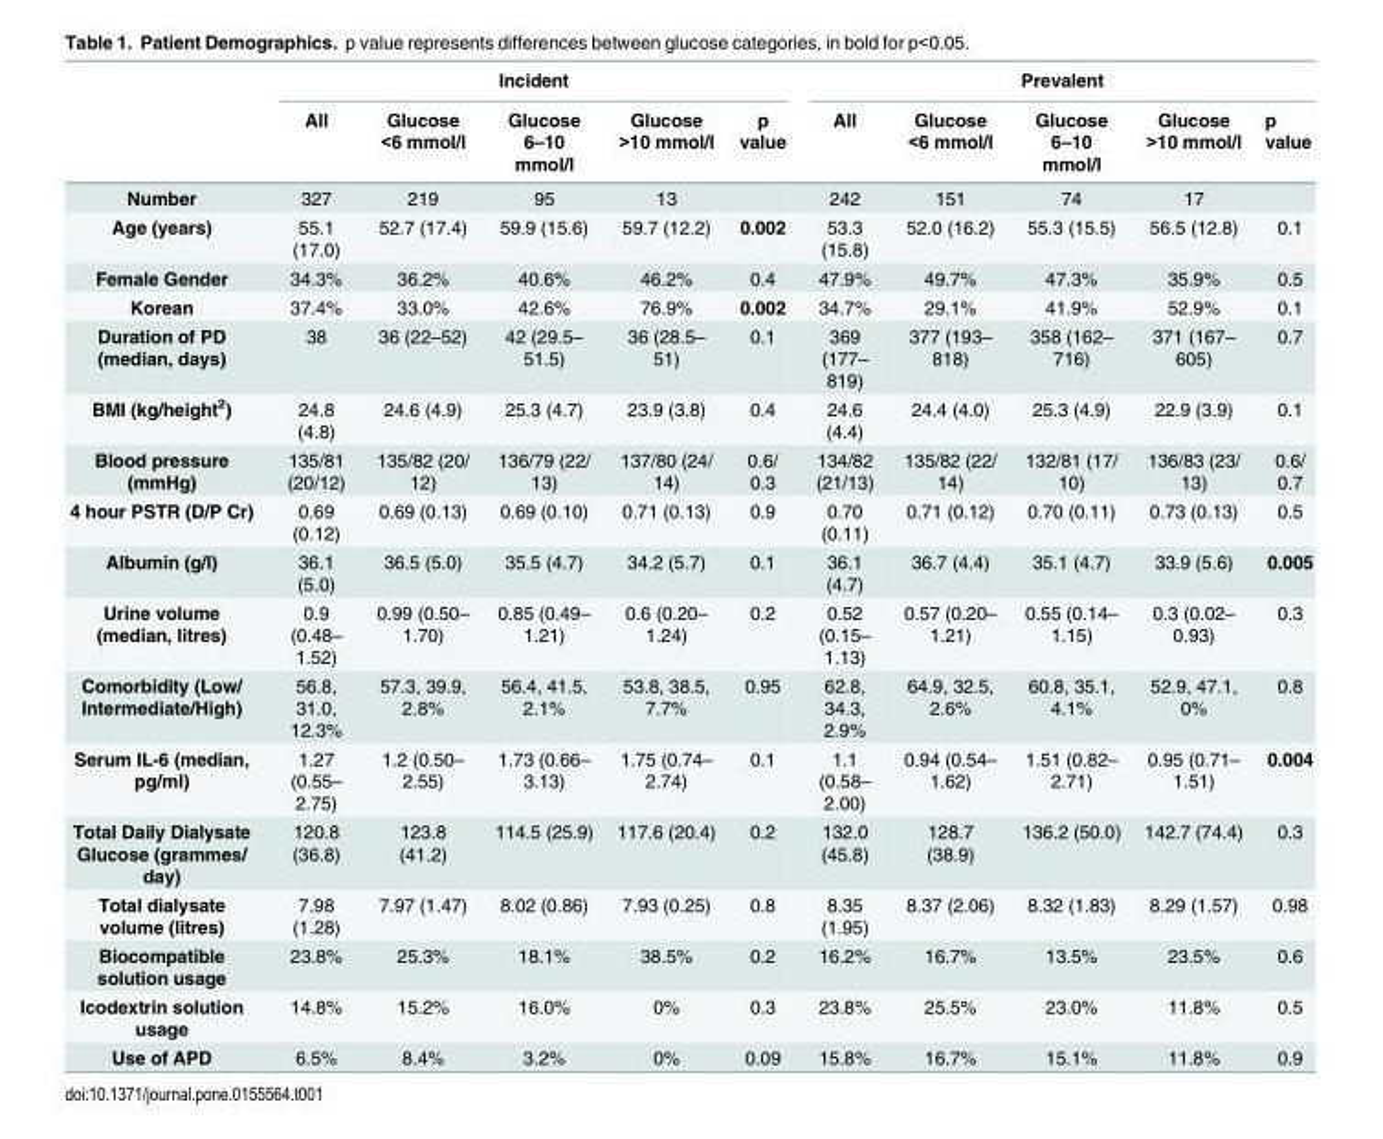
<table><thead><tr><td rowspan="2"></td><td colspan="5">Incident</td><td colspan="5">Prevalent</td></tr><tr><td>All</td><td>Glucose &lt;6 mmol/l</td><td>Glucose 6–10 mmol/l</td><td>Glucose &gt;10 mmol/l</td><td>p value</td><td>All</td><td>Glucose &lt;6 mmol/l</td><td>Glucose 6–10 mmol/l</td><td>Glucose &gt;10 mmol/l</td><td>p value</td></tr></thead><tbody><tr><td>Number</td><td>327</td><td>219</td><td>95</td><td>13</td><td></td><td>242</td><td>151</td><td>74</td><td>17</td><td></td></tr><tr><td>Age (years)</td><td>55.1 (17.0)</td><td>52.7 (17.4)</td><td>59.9 (15.6)</td><td>59.7 (12.2)</td><td>0.002</td><td>53.3 (15.8)</td><td>52.0 (16.2)</td><td>55.3 (15.5)</td><td>56.5 (12.8)</td><td>0.1</td></tr><tr><td>Female Gender</td><td>34.3%</td><td>36.2%</td><td>40.6%</td><td>46.2%</td><td>0.4</td><td>47.9%</td><td>49.7%</td><td>47.3%</td><td>35.9%</td><td>0.5</td></tr><tr><td>Korean</td><td>37.4%</td><td>33.0%</td><td>42.6%</td><td>76.9%</td><td>0.002</td><td>34.7%</td><td>29.1%</td><td>41.9%</td><td>52.9%</td><td>0.1</td></tr><tr><td>Duration of PD (median, days)</td><td>38</td><td>36 (22–52)</td><td>42 (29.5– 51.5)</td><td>36 (28.5– 51)</td><td>0.1</td><td>369 (177– 819)</td><td>377 (193– 818)</td><td>358 (162– 716)</td><td>371 (167– 605)</td><td>0.7</td></tr><tr><td>BMI (kg/height<sup>2</sup>)</td><td>24.8 (4.8)</td><td>24.6 (4.9)</td><td>25.3 (4.7)</td><td>23.9 (3.8)</td><td>0.4</td><td>24.6 (4.4)</td><td>24.4 (4.0)</td><td>25.3 (4.9)</td><td>22.9 (3.9)</td><td>0.1</td></tr><tr><td>Blood pressure (mmHg)</td><td>135/81 (20/12)</td><td>135/82 (20/ 12)</td><td>136/79 (22/ 13)</td><td>137/80 (24/ 14)</td><td>0.6/ 0.3</td><td>134/82 (21/13)</td><td>135/82 (22/ 14)</td><td>132/81 (17/ 10)</td><td>136/83 (23/ 13)</td><td>0.6/ 0.7</td></tr><tr><td>4 hour PSTR (D/P Cr)</td><td>0.69 (0.12)</td><td>0.69 (0.13)</td><td>0.69 (0.10)</td><td>0.71 (0.13)</td><td>0.9</td><td>0.70 (0.11)</td><td>0.71 (0.12)</td><td>0.70 (0.11)</td><td>0.73 (0.13)</td><td>0.5</td></tr><tr><td>Albumin (g/l)</td><td>36.1 (5.0)</td><td>36.5 (5.0)</td><td>35.5 (4.7)</td><td>34.2 (5.7)</td><td>0.1</td><td>36.1 (4.7)</td><td>36.7 (4.4)</td><td>35.1 (4.7)</td><td>33.9 (5.6)</td><td>0.005</td></tr><tr><td>Urine volume (median, litres)</td><td>0.9 (0.48– 1.52)</td><td>0.99 (0.50– 1.70)</td><td>0.85 (0.49– 1.21)</td><td>0.6 (0.20– 1.24)</td><td>0.2</td><td>0.52 (0.15– 1.13)</td><td>0.57 (0.20– 1.21)</td><td>0.55 (0.14– 1.15)</td><td>0.3 (0.02– 0.93)</td><td>0.3</td></tr><tr><td>Comorbidity (Low/ Intermediate/High)</td><td>56.8, 31.0, 12.3%</td><td>57.3, 39.9, 2.8%</td><td>56.4, 41.5, 2.1%</td><td>53.8, 38.5, 7.7%</td><td>0.95</td><td>62.8, 34.3, 2.9%</td><td>64.9, 32.5, 2.6%</td><td>60.8, 35.1, 4.1%</td><td>52.9, 47.1, 0%</td><td>0.8</td></tr><tr><td>Serum IL-6 (median, pg/ml)</td><td>1.27 (0.55– 2.75)</td><td>1.2 (0.50– 2.55)</td><td>1.73 (0.66– 3.13)</td><td>1.75 (0.74– 2.74)</td><td>0.1</td><td>1.1 (0.58– 2.00)</td><td>0.94 (0.54– 1.62)</td><td>1.51 (0.82– 2.71)</td><td>0.95 (0.71– 1.51)</td><td>0.004</td></tr><tr><td>Total Daily Dialysate Glucose (grammes/ day)</td><td>120.8 (36.8)</td><td>123.8 (41.2)</td><td>114.5 (25.9)</td><td>117.6 (20.4)</td><td>0.2</td><td>132.0 (45.8)</td><td>128.7 (38.9)</td><td>136.2 (50.0)</td><td>142.7 (74.4)</td><td>0.3</td></tr><tr><td>Total dialysate volume (litres)</td><td>7.98 (1.28)</td><td>7.97 (1.47)</td><td>8.02 (0.86)</td><td>7.93 (0.25)</td><td>0.8</td><td>8.35 (1.95)</td><td>8.37 (2.06)</td><td>8.32 (1.83)</td><td>8.29 (1.57)</td><td>0.98</td></tr><tr><td>Biocompatible solution usage</td><td>23.8%</td><td>25.3%</td><td>18.1%</td><td>38.5%</td><td>0.2</td><td>16.2%</td><td>16.7%</td><td>13.5%</td><td>23.5%</td><td>0.6</td></tr><tr><td>Icodextrin solution usage</td><td>14.8%</td><td>15.2%</td><td>16.0%</td><td>0%</td><td>0.3</td><td>23.8%</td><td>25.5%</td><td>23.0%</td><td>11.8%</td><td>0.5</td></tr><tr><td>Use of APD</td><td>6.5%</td><td>8.4%</td><td>3.2%</td><td>0%</td><td>0.09</td><td>15.8%</td><td>16.7%</td><td>15.1%</td><td>11.8%</td><td>0.9</td></tr></tbody></table>